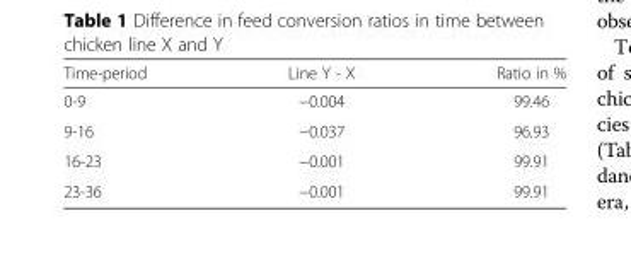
<table><thead><tr><td>Time-period</td><td>Line Y - X</td><td>Ratio in %</td></tr></thead><tbody><tr><td>0-9</td><td>−0.004</td><td>99.46</td></tr><tr><td>9-16</td><td>−0.037</td><td>96.93</td></tr><tr><td>16-23</td><td>−0.001</td><td>99.91</td></tr><tr><td>23-36</td><td>−0.001</td><td>99.91</td></tr></tbody></table>